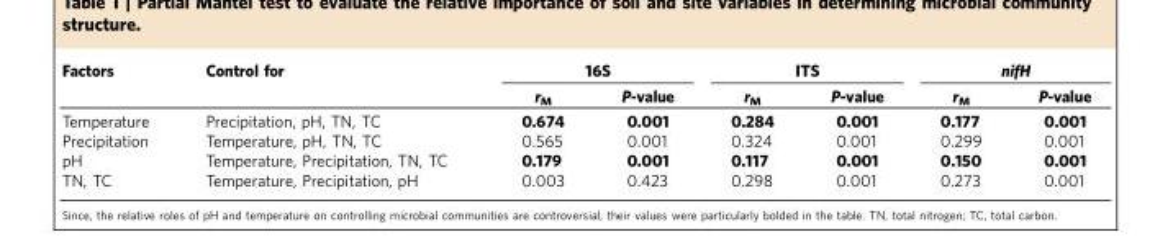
<table><thead><tr><td rowspan="2">Factors</td><td rowspan="2">Control for</td><td colspan="2">16S</td><td colspan="2">ITS</td><td colspan="2">nifH</td></tr><tr><td>r<sub>M</sub></td><td>P-value</td><td>r<sub>M</sub></td><td>P-value</td><td>r<sub>M</sub></td><td>P-value</td></tr></thead><tbody><tr><td>Temperature</td><td>Precipitation, pH, TN, TC</td><td>0.674</td><td>0.001</td><td>0.284</td><td>0.001</td><td>0.177</td><td>0.001</td></tr><tr><td>Precipitation</td><td>Temperature, pH, TN, TC</td><td>0.565</td><td>0.001</td><td>0.324</td><td>0.001</td><td>0.299</td><td>0.001</td></tr><tr><td>pH</td><td>Temperature, Precipitation, TN, TC</td><td>0.179</td><td>0.001</td><td>0.117</td><td>0.001</td><td>0.150</td><td>0.001</td></tr><tr><td>TN, TC</td><td>Temperature, Precipitation, pH</td><td>0.003</td><td>0.423</td><td>0.298</td><td>0.001</td><td>0.273</td><td>0.001</td></tr></tbody></table>